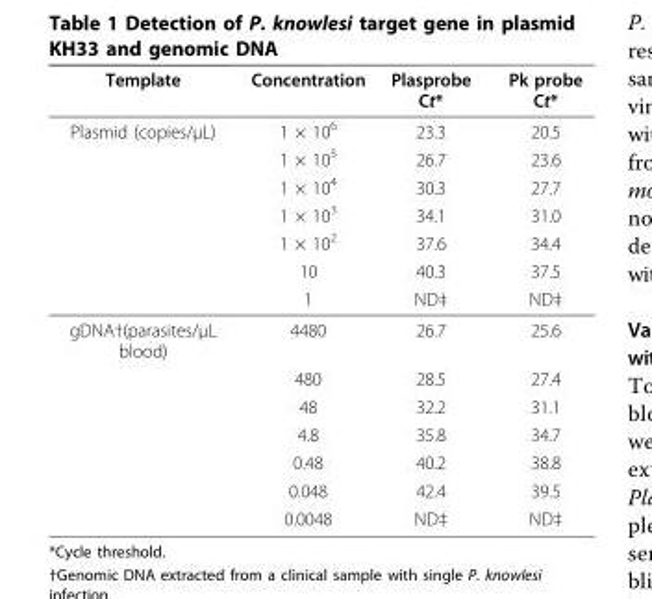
<table><thead><tr><td>Template</td><td>Concentration</td><td>Plasprobe Ct*</td><td>Pk probe Ct*</td></tr></thead><tbody><tr><td rowspan="7">Plasmid (copies/μL)</td><td>1 × 10<sup>6</sup></td><td>23.3</td><td>20.5</td></tr><tr><td>1 × 10<sup>5</sup></td><td>26.7</td><td>23.6</td></tr><tr><td>1 × 10<sup>4</sup></td><td>30.3</td><td>27.7</td></tr><tr><td>1 × 10<sup>3</sup></td><td>34.1</td><td>31.0</td></tr><tr><td>1 × 10<sup>2</sup></td><td>37.6</td><td>34.4</td></tr><tr><td>10</td><td>40.3</td><td>37.5</td></tr><tr><td>1</td><td>ND‡</td><td>ND‡</td></tr><tr><td rowspan="7">gDNA†(parasites/μL blood)</td><td>4480</td><td>26.7</td><td>25.6</td></tr><tr><td>480</td><td>28.5</td><td>27.4</td></tr><tr><td>48</td><td>32.2</td><td>31.1</td></tr><tr><td>4.8</td><td>35.8</td><td>34.7</td></tr><tr><td>0.48</td><td>40.2</td><td>38.8</td></tr><tr><td>0.048</td><td>42.4</td><td>39.5</td></tr><tr><td>0.0048</td><td>ND‡</td><td>ND‡</td></tr></tbody></table>